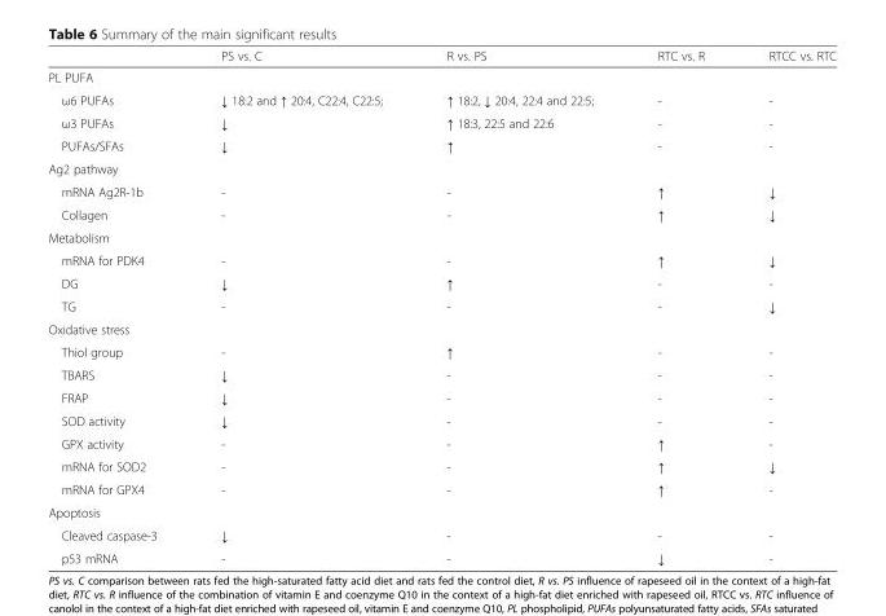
<table><thead><tr><td></td><td>PS vs. C</td><td>R vs. PS</td><td>RTC vs. R</td><td>RTCC vs. RTC</td></tr></thead><tbody><tr><td colspan="5">PL PUFA</td></tr><tr><td>ω6 PUFAs</td><td>↓ 18:2 and ↑ 20:4, C22:4, C22:5;</td><td>↑ 18:2, ↓ 20:4, 22:4 and 22:5;</td><td>-</td><td>-</td></tr><tr><td>ω3 PUFAs</td><td>↓</td><td>↑ 18:3, 22:5 and 22:6</td><td>-</td><td>-</td></tr><tr><td>PUFAs/SFAs</td><td>↓</td><td>↑</td><td>-</td><td>-</td></tr><tr><td colspan="5">Ag2 pathway</td></tr><tr><td>mRNA Ag2R-1b</td><td>-</td><td>-</td><td>↑</td><td>↓</td></tr><tr><td>Collagen</td><td>-</td><td>-</td><td>↑</td><td>↓</td></tr><tr><td colspan="5">Metabolism</td></tr><tr><td>mRNA for PDK4</td><td>-</td><td>-</td><td>↑</td><td>↓</td></tr><tr><td>DG</td><td>↓</td><td>↑</td><td>-</td><td>-</td></tr><tr><td>TG</td><td>-</td><td>-</td><td>-</td><td>↓</td></tr><tr><td colspan="5">Oxidative stress</td></tr><tr><td>Thiol group</td><td>-</td><td>↑</td><td>-</td><td>-</td></tr><tr><td>TBARS</td><td>↓</td><td>-</td><td>-</td><td>-</td></tr><tr><td>FRAP</td><td>↓</td><td>-</td><td>-</td><td>-</td></tr><tr><td>SOD activity</td><td>↓</td><td>-</td><td>-</td><td>-</td></tr><tr><td>GPX activity</td><td>-</td><td>-</td><td>↑</td><td>-</td></tr><tr><td>mRNA for SOD2</td><td>-</td><td>-</td><td>↑</td><td>↓</td></tr><tr><td>mRNA for GPX4</td><td>-</td><td>-</td><td>↑</td><td>-</td></tr><tr><td colspan="5">Apoptosis</td></tr><tr><td>Cleaved caspase-3</td><td>↓</td><td>-</td><td>-</td><td>-</td></tr><tr><td>p53 mRNA</td><td>-</td><td>-</td><td>↓</td><td>-</td></tr></tbody></table>